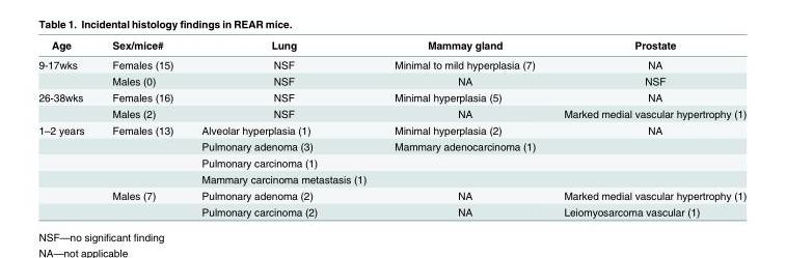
<table><thead><tr><td>Age</td><td>Sex/mice#</td><td>Lung</td><td>Mammay gland</td><td>Prostate</td></tr></thead><tbody><tr><td rowspan="2">9-17wks</td><td>Females (15)</td><td>NSF</td><td>Minimal to mild hyperplasia (7)</td><td>NA</td></tr><tr><td>Males (0)</td><td>NSF</td><td>NA</td><td>NSF</td></tr><tr><td rowspan="2">26-38wks</td><td>Females (16)</td><td>NSF</td><td>Minimal hyperplasia (5)</td><td>NA</td></tr><tr><td>Males (2)</td><td>NSF</td><td>NA</td><td>Marked medial vascular hypertrophy (1)</td></tr><tr><td rowspan="6">1–2 years</td><td>Females (13)</td><td>Alveolar hyperplasia (1)</td><td>Minimal hyperplasia (2)</td><td>NA</td></tr><tr><td></td><td>Pulmonary adenoma (3)</td><td>Mammary adenocarcinoma (1)</td><td></td></tr><tr><td></td><td>Pulmonary carcinoma (1)</td><td></td><td></td></tr><tr><td></td><td>Mammary carcinoma metastasis (1)</td><td></td><td></td></tr><tr><td>Males (7)</td><td>Pulmonary adenoma (2)</td><td>NA</td><td>Marked medial vascular hypertrophy (1)</td></tr><tr><td></td><td>Pulmonary carcinoma (2)</td><td>NA</td><td>Leiomyosarcoma vascular (1)</td></tr></tbody></table>